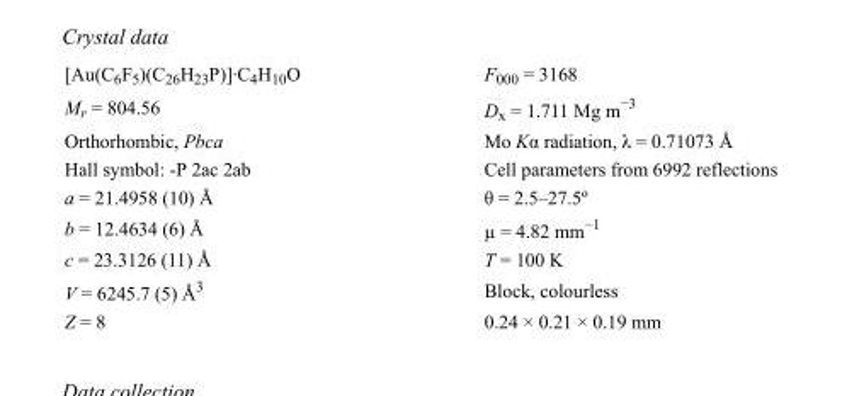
<table><tbody><tr><td>[Au(C<sub>6</sub>F<sub>5</sub>)(C<sub>26</sub>H<sub>23</sub>P)]·C<sub>4</sub>H<sub>10</sub>O</td><td>F000 = 3168</td></tr><tr><td>M<sub>r</sub> = 804.56</td><td>D<sub>x</sub> = 1.711 Mg m<sup>−3</sup></td></tr><tr><td>Orthorhombic, Pbca</td><td>Mo Kα radiation, λ = 0.71073 Å</td></tr><tr><td>Hall symbol: -P 2ac 2ab</td><td>Cell parameters from 6992 reflections</td></tr><tr><td>a = 21.4958 (10) Å</td><td>θ = 2.5–27.5º</td></tr><tr><td>b = 12.4634 (6) Å</td><td>µ = 4.82 mm<sup>−1</sup></td></tr><tr><td>c = 23.3126 (11) Å</td><td>T = 100 K</td></tr><tr><td>V = 6245.7 (5) Å<sup>3</sup></td><td>Block, colourless</td></tr><tr><td>Z = 8</td><td>0.24 × 0.21 × 0.19 mm</td></tr></tbody></table>